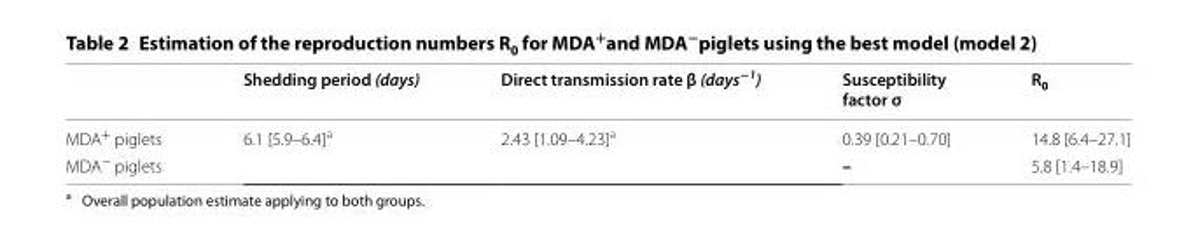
<table><thead><tr><td></td><td>Shedding period (days)</td><td>Direct transmission rate β (days<sup>−1</sup>)</td><td>Susceptibility factor σ</td><td>R<sub>0</sub></td></tr></thead><tbody><tr><td>MDA<sup>+</sup> piglets</td><td rowspan="2">6.1 [5.9–6.4]<sup>a</sup></td><td rowspan="2">2.43 [1.09–4.23]<sup>a</sup></td><td>0.39 [0.21–0.70]</td><td>14.8 [6.4–27.1]</td></tr><tr><td>MDA<sup>−</sup> piglets</td><td>–</td><td>5.8 [1.4–18.9]</td></tr></tbody></table>